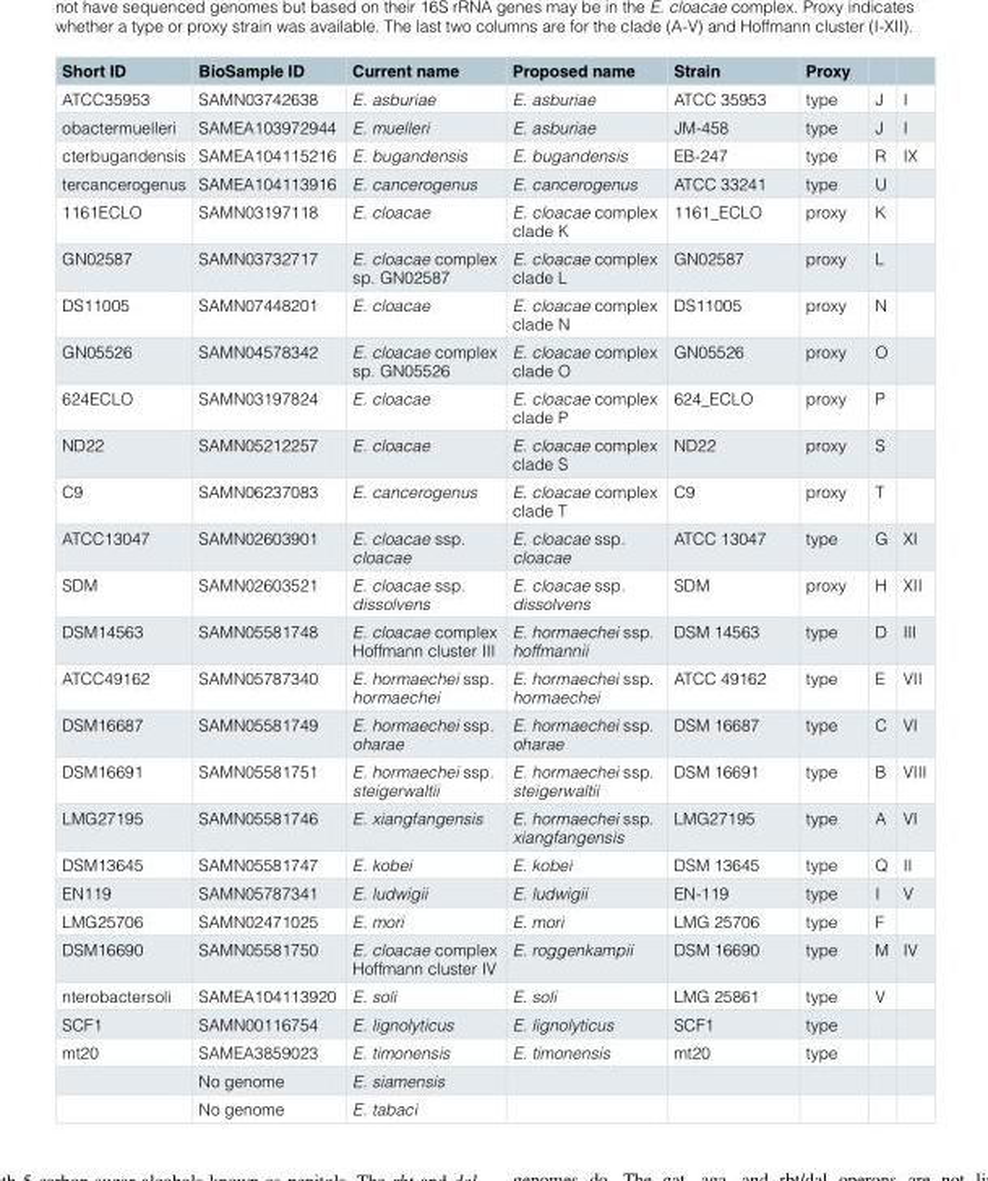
<table><thead><tr><td>Short ID</td><td>BioSample ID</td><td>Current name</td><td>Proposed name</td><td>Strain</td><td>Proxy</td><td></td><td></td></tr></thead><tbody><tr><td>ATCC35953</td><td>SAMN03742638</td><td>E. asburiae</td><td>E. asburiae</td><td>ATCC 35953</td><td>type</td><td>J</td><td>I</td></tr><tr><td>obactermuelleri</td><td>SAMEA103972944</td><td>E. muelleri</td><td>E. asburiae</td><td>JM-458</td><td>type</td><td>J</td><td>I</td></tr><tr><td>cterbugandensis</td><td>SAMEA104115216</td><td>E. bugandensis</td><td>E. bugandensis</td><td>EB-247</td><td>type</td><td>R</td><td>IX</td></tr><tr><td>tercancerogenus</td><td>SAMEA104113916</td><td>E. cancerogenus</td><td>E. cancerogenus</td><td>ATCC 33241</td><td>type</td><td>U</td><td></td></tr><tr><td>1161ECLO</td><td>SAMN03197118</td><td>E. cloacae</td><td>E. cloacae complex clade K</td><td>1161_ECLO</td><td>proxy</td><td>K</td><td></td></tr><tr><td>GN02587</td><td>SAMN03732717</td><td>E. cloacae complex sp. GN02587</td><td>E. cloacae complex clade L</td><td>GN02587</td><td>proxy</td><td>L</td><td></td></tr><tr><td>DS11005</td><td>SAMN07448201</td><td>E. cloacae</td><td>E. cloacae complex clade N</td><td>DS11005</td><td>proxy</td><td>N</td><td></td></tr><tr><td>GN05526</td><td>SAMN04578342</td><td>E. cloacae complex sp. GN05526</td><td>E. cloacae complex clade O</td><td>GN05526</td><td>proxy</td><td>O</td><td></td></tr><tr><td>624ECLO</td><td>SAMN03197824</td><td>E. cloacae</td><td>E. cloacae complex clade P</td><td>624_ECLO</td><td>proxy</td><td>P</td><td></td></tr><tr><td>ND22</td><td>SAMN05212257</td><td>E. cloacae</td><td>E. cloacae complex clade S</td><td>ND22</td><td>proxy</td><td>S</td><td></td></tr><tr><td>C9</td><td>SAMN06237083</td><td>E. cancerogenus</td><td>E. cloacae complex clade T</td><td>C9</td><td>proxy</td><td>T</td><td></td></tr><tr><td>ATCC13047</td><td>SAMN02603901</td><td>E. cloacae ssp. cloacae</td><td>E. cloacae ssp. cloacae</td><td>ATCC 13047</td><td>type</td><td>G</td><td>XI</td></tr><tr><td>SDM</td><td>SAMN02603521</td><td>E. cloacae ssp. dissolvens</td><td>E. cloacae ssp. dissolvens</td><td>SDM</td><td>proxy</td><td>H</td><td>XII</td></tr><tr><td>DSM14563</td><td>SAMN05581748</td><td>E. cloacae complex Hoffmann cluster III</td><td>E. hormaechei ssp. hoffmannii</td><td>DSM 14563</td><td>type</td><td>D</td><td>III</td></tr><tr><td>ATCC49162</td><td>SAMN05787340</td><td>E. hormaechei ssp. hormaechei</td><td>E. hormaechei ssp. hormaechei</td><td>ATCC 49162</td><td>type</td><td>E</td><td>VII</td></tr><tr><td>DSM16687</td><td>SAMN05581749</td><td>E. hormaechei ssp. oharae</td><td>E. hormaechei ssp. oharae</td><td>DSM 16687</td><td>type</td><td>C</td><td>VI</td></tr><tr><td>DSM16691</td><td>SAMN05581751</td><td>E. hormaechei ssp. steigerwaltii</td><td>E. hormaechei ssp. steigerwaltii</td><td>DSM 16691</td><td>type</td><td>B</td><td>VIII</td></tr><tr><td>LMG27195</td><td>SAMN05581746</td><td>E. xiangfangensis</td><td>E. hormaechei ssp. xiangfangensis</td><td>LMG27195</td><td>type</td><td>A</td><td>VI</td></tr><tr><td>DSM13645</td><td>SAMN05581747</td><td>E. kobei</td><td>E. kobei</td><td>DSM 13645</td><td>type</td><td>Q</td><td>II</td></tr><tr><td>EN119</td><td>SAMN05787341</td><td>E. ludwigii</td><td>E. ludwigii</td><td>EN-119</td><td>type</td><td>I</td><td>V</td></tr><tr><td>LMG25706</td><td>SAMN02471025</td><td>E. mori</td><td>E. mori</td><td>LMG 25706</td><td>type</td><td>F</td><td></td></tr><tr><td>DSM16690</td><td>SAMN05581750</td><td>E. cloacae complex Hoffmann cluster IV</td><td>E. roggenkampii</td><td>DSM 16690</td><td>type</td><td>M</td><td>IV</td></tr><tr><td>nterobactersoli</td><td>SAMEA104113920</td><td>E. soli</td><td>E. soli</td><td>LMG 25861</td><td>type</td><td>V</td><td></td></tr><tr><td>SCF1</td><td>SAMN00116754</td><td>E. lignolyticus</td><td>E. lignolyticus</td><td>SCF1</td><td>type</td><td></td><td></td></tr><tr><td rowspan="3">mt20</td><td>SAMEA3859023</td><td>E. timonensis</td><td>E. timonensis</td><td>mt20</td><td>type</td><td></td><td></td></tr><tr><td>No genome</td><td>E. siamensis</td><td></td><td></td><td></td><td></td><td></td></tr><tr><td>No genome</td><td>E. tabaci</td><td></td><td></td><td></td><td></td><td></td></tr></tbody></table>